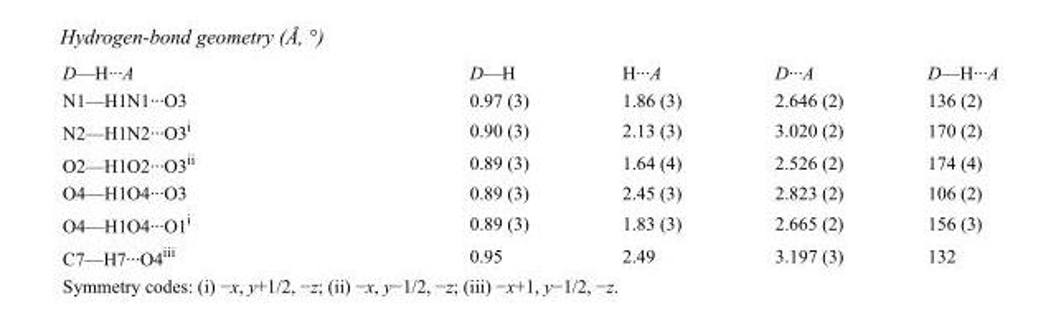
<table><tbody><tr><td>D—H···A</td><td>D—H</td><td>H···A</td><td>D···A</td><td>D—H···A</td></tr><tr><td>N1—H1N1···O3</td><td>0.97 (3)</td><td>1.86 (3)</td><td>2.646 (2)</td><td>136 (2)</td></tr><tr><td>N2—H1N2···O3<sup>i</sup></td><td>0.90 (3)</td><td>2.13 (3)</td><td>3.020 (2)</td><td>170 (2)</td></tr><tr><td>O2—H1O2···O3<sup>ii</sup></td><td>0.89 (3)</td><td>1.64 (4)</td><td>2.526 (2)</td><td>174 (4)</td></tr><tr><td>O4—H1O4···O3</td><td>0.89 (3)</td><td>2.45 (3)</td><td>2.823 (2)</td><td>106 (2)</td></tr><tr><td>O4—H1O4···O1<sup>i</sup></td><td>0.89 (3)</td><td>1.83 (3)</td><td>2.665 (2)</td><td>156 (3)</td></tr><tr><td>C7—H7···O4<sup>iii</sup></td><td>0.95</td><td>2.49</td><td>3.197 (3)</td><td>132</td></tr></tbody></table>